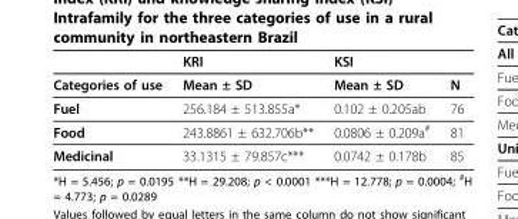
<table><thead><tr><td></td><td>KRI</td><td>KSI</td><td></td></tr></thead><tbody><tr><td>Categories of use</td><td>Mean ± SD</td><td>Mean ± SD</td><td>N</td></tr><tr><td>Fuel</td><td>256.184 ± 513.855a*</td><td>0.102 ± 0.205ab</td><td>76</td></tr><tr><td>Food</td><td>243.8861 ± 632.706b**</td><td>0.0806 ± 0.209a<sup>#</sup></td><td>81</td></tr><tr><td>Medicinal</td><td>33.1315 ± 79.857c***</td><td>0.0742 ± 0.178b</td><td>85</td></tr></tbody></table>